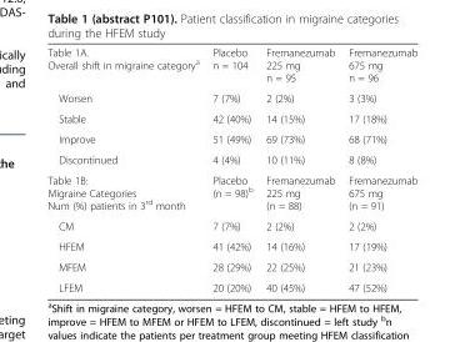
<table><tbody><tr><td>Table 1A. Overall shift in migraine category<sup>a</sup></td><td>Placebo n = 104</td><td>Fremanezumab 225 mg n = 95</td><td>Fremanezumab 675 mg n = 96</td></tr><tr><td>Worsen</td><td>7 (7%)</td><td>2 (2%)</td><td>3 (3%)</td></tr><tr><td>Stable</td><td>42 (40%)</td><td>14 (15%)</td><td>17 (18%)</td></tr><tr><td>Improve</td><td>51 (49%)</td><td>69 (73%)</td><td>68 (71%)</td></tr><tr><td>Discontinued</td><td>4 (4%)</td><td>10 (11%)</td><td>8 (8%)</td></tr><tr><td>Table 1B: Migraine Categories Num (%) patients in 3<sup>rd</sup> month</td><td>Placebo (n = 98)<sup>b</sup></td><td>Fremanezumab 225 mg (n = 88)</td><td>Fremanezumab 675 mg (n = 91)</td></tr><tr><td>CM</td><td>7 (7%)</td><td>2 (2%)</td><td>2 (2%)</td></tr><tr><td>HFEM</td><td>41 (42%)</td><td>14 (16%)</td><td>17 (19%)</td></tr><tr><td>MFEM</td><td>28 (29%)</td><td>22 (25%)</td><td>21 (23%)</td></tr><tr><td>LFEM</td><td>20 (20%)</td><td>40 (45%)</td><td>47 (52%)</td></tr></tbody></table>